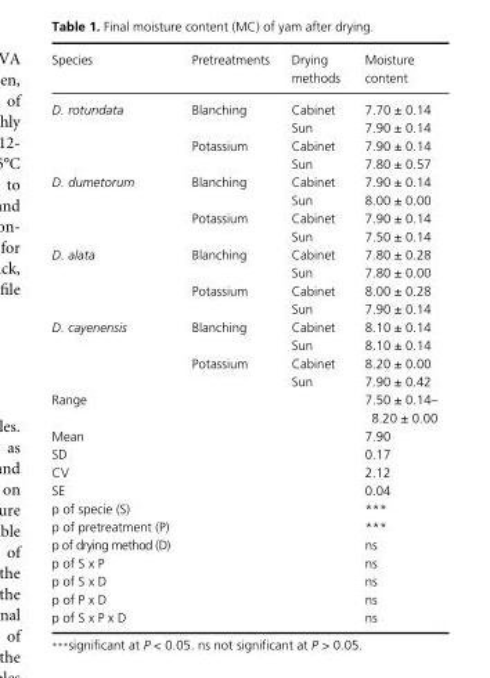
<table><thead><tr><td>Species</td><td>Pretreatments</td><td>Drying methods</td><td>Moisture content</td></tr></thead><tbody><tr><td rowspan="4">D. rotundata</td><td rowspan="2">Blanching</td><td>Cabinet</td><td>7.70 ± 0.14</td></tr><tr><td>Sun</td><td>7.90 ± 0.14</td></tr><tr><td rowspan="2">Potassium</td><td>Cabinet</td><td>7.90 ± 0.14</td></tr><tr><td>Sun</td><td>7.80 ± 0.57</td></tr><tr><td rowspan="4">D. dumetorum</td><td rowspan="2">Blanching</td><td>Cabinet</td><td>7.90 ± 0.14</td></tr><tr><td>Sun</td><td>8.00 ± 0.00</td></tr><tr><td rowspan="2">Potassium</td><td>Cabinet</td><td>7.90 ± 0.14</td></tr><tr><td>Sun</td><td>7.50 ± 0.14</td></tr><tr><td rowspan="4">D. alata</td><td rowspan="2">Blanching</td><td>Cabinet</td><td>7.80 ± 0.28</td></tr><tr><td>Sun</td><td>7.80 ± 0.00</td></tr><tr><td rowspan="2">Potassium</td><td>Cabinet</td><td>8.00 ± 0.28</td></tr><tr><td>Sun</td><td>7.90 ± 0.14</td></tr><tr><td rowspan="4">D. cayenensis</td><td rowspan="2">Blanching</td><td>Cabinet</td><td>8.10 ± 0.14</td></tr><tr><td>Sun</td><td>8.10 ± 0.14</td></tr><tr><td rowspan="2">Potassium</td><td>Cabinet</td><td>8.20 ± 0.00</td></tr><tr><td>Sun</td><td>7.90 ± 0.42</td></tr><tr><td>Range</td><td></td><td></td><td>7.50 ± 0.14– 8.20 ± 0.00</td></tr><tr><td>Mean</td><td></td><td></td><td>7.90</td></tr><tr><td>SD</td><td></td><td></td><td>0.17</td></tr><tr><td>CV</td><td></td><td></td><td>2.12</td></tr><tr><td>SE</td><td></td><td></td><td>0.04</td></tr><tr><td>p of specie (S)</td><td></td><td></td><td>***</td></tr><tr><td>p of pretreatment (P)</td><td></td><td></td><td>***</td></tr><tr><td>p of drying method (D)</td><td></td><td></td><td>ns</td></tr><tr><td>p of S x P</td><td></td><td></td><td>ns</td></tr><tr><td>p of S x D</td><td></td><td></td><td>ns</td></tr><tr><td>p of P x D</td><td></td><td></td><td>ns</td></tr><tr><td>p of S x P x D</td><td></td><td></td><td>ns</td></tr></tbody></table>